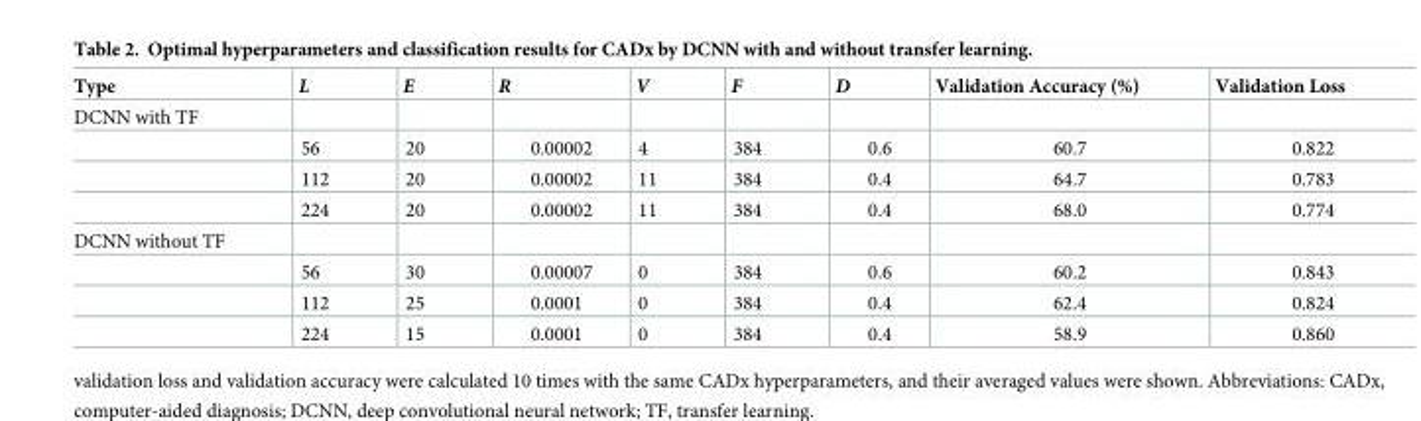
<table><thead><tr><td>Type</td><td>L</td><td>E</td><td>R</td><td>V</td><td>F</td><td>D</td><td>Validation Accuracy (%)</td><td>Validation Loss</td></tr></thead><tbody><tr><td colspan="9">DCNN with TF</td></tr><tr><td></td><td>56</td><td>20</td><td>0.00002</td><td>4</td><td>384</td><td>0.6</td><td>60.7</td><td>0.822</td></tr><tr><td></td><td>112</td><td>20</td><td>0.00002</td><td>11</td><td>384</td><td>0.4</td><td>64.7</td><td>0.783</td></tr><tr><td></td><td>224</td><td>20</td><td>0.00002</td><td>11</td><td>384</td><td>0.4</td><td>68.0</td><td>0.774</td></tr><tr><td colspan="9">DCNN without TF</td></tr><tr><td></td><td>56</td><td>30</td><td>0.00007</td><td>0</td><td>384</td><td>0.6</td><td>60.2</td><td>0.843</td></tr><tr><td></td><td>112</td><td>25</td><td>0.0001</td><td>0</td><td>384</td><td>0.4</td><td>62.4</td><td>0.824</td></tr><tr><td></td><td>224</td><td>15</td><td>0.0001</td><td>0</td><td>384</td><td>0.4</td><td>58.9</td><td>0.860</td></tr></tbody></table>